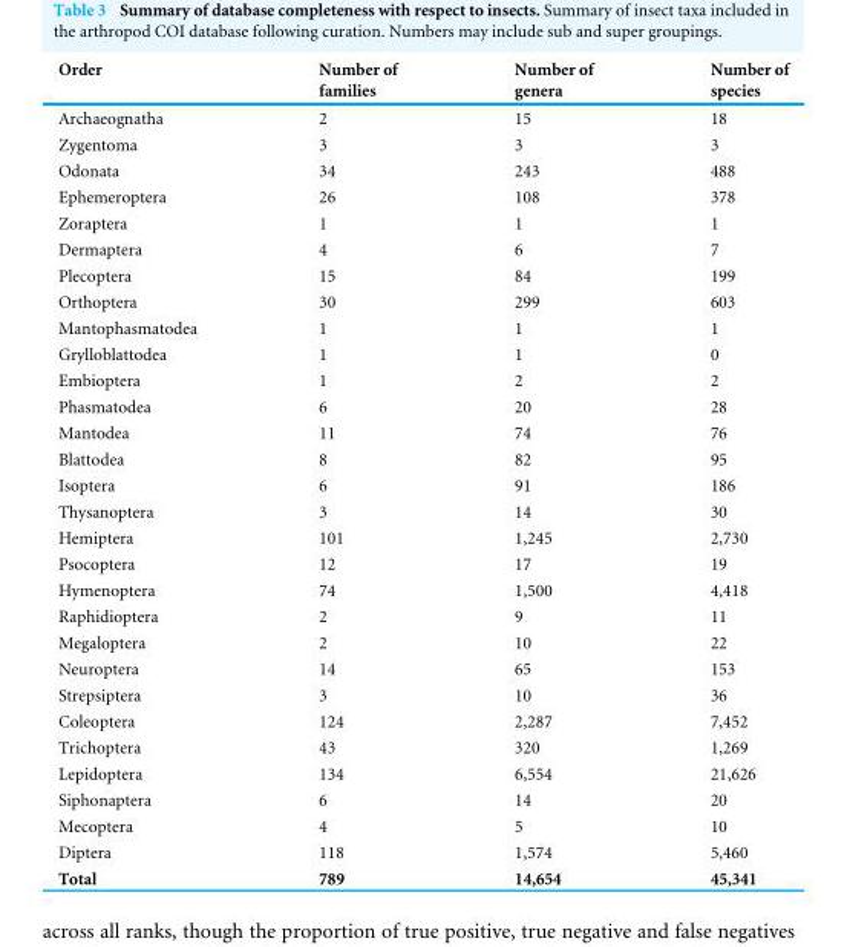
<table><thead><tr><td>Order</td><td>Number of families</td><td>Number of genera</td><td>Number of species</td></tr></thead><tbody><tr><td>Archaeognatha</td><td>2</td><td>15</td><td>18</td></tr><tr><td>Zygentoma</td><td>3</td><td>3</td><td>3</td></tr><tr><td>Odonata</td><td>34</td><td>243</td><td>488</td></tr><tr><td>Ephemeroptera</td><td>26</td><td>108</td><td>378</td></tr><tr><td>Zoraptera</td><td>1</td><td>1</td><td>1</td></tr><tr><td>Dermaptera</td><td>4</td><td>6</td><td>7</td></tr><tr><td>Plecoptera</td><td>15</td><td>84</td><td>199</td></tr><tr><td>Orthoptera</td><td>30</td><td>299</td><td>603</td></tr><tr><td>Mantophasmatodea</td><td>1</td><td>1</td><td>1</td></tr><tr><td>Grylloblattodea</td><td>1</td><td>1</td><td>0</td></tr><tr><td>Embioptera</td><td>1</td><td>2</td><td>2</td></tr><tr><td>Phasmatodea</td><td>6</td><td>20</td><td>28</td></tr><tr><td>Mantodea</td><td>11</td><td>74</td><td>76</td></tr><tr><td>Blattodea</td><td>8</td><td>82</td><td>95</td></tr><tr><td>Isoptera</td><td>6</td><td>91</td><td>186</td></tr><tr><td>Thysanoptera</td><td>3</td><td>14</td><td>30</td></tr><tr><td>Hemiptera</td><td>101</td><td>1,245</td><td>2,730</td></tr><tr><td>Psocoptera</td><td>12</td><td>17</td><td>19</td></tr><tr><td>Hymenoptera</td><td>74</td><td>1,500</td><td>4,418</td></tr><tr><td>Raphidioptera</td><td>2</td><td>9</td><td>11</td></tr><tr><td>Megaloptera</td><td>2</td><td>10</td><td>22</td></tr><tr><td>Neuroptera</td><td>14</td><td>65</td><td>153</td></tr><tr><td>Strepsiptera</td><td>3</td><td>10</td><td>36</td></tr><tr><td>Coleoptera</td><td>124</td><td>2,287</td><td>7,452</td></tr><tr><td>Trichoptera</td><td>43</td><td>320</td><td>1,269</td></tr><tr><td>Lepidoptera</td><td>134</td><td>6,554</td><td>21,626</td></tr><tr><td>Siphonaptera</td><td>6</td><td>14</td><td>20</td></tr><tr><td>Mecoptera</td><td>4</td><td>5</td><td>10</td></tr><tr><td>Diptera</td><td>118</td><td>1,574</td><td>5,460</td></tr><tr><td>Total</td><td>789</td><td>14,654</td><td>45,341</td></tr></tbody></table>